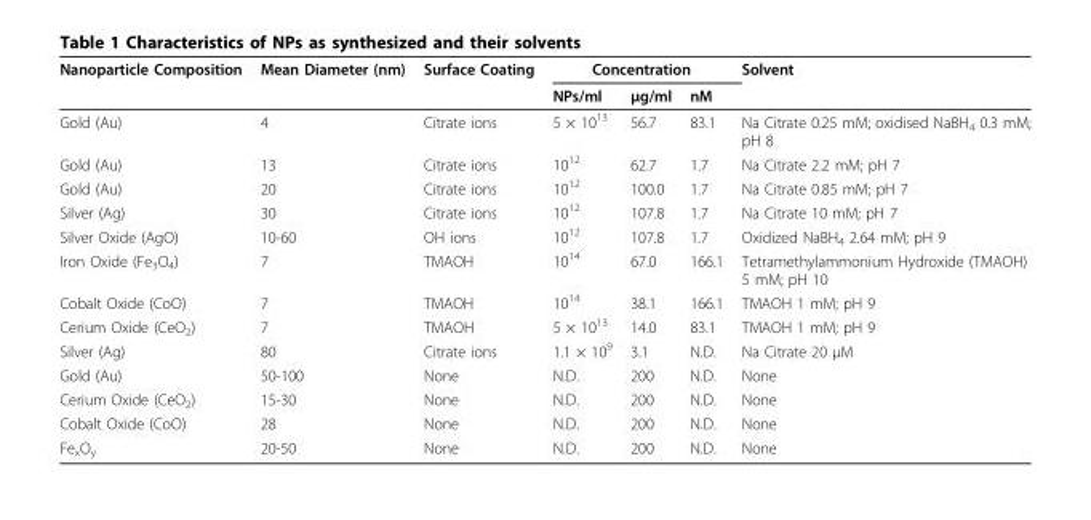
<table><thead><tr><td rowspan="2">Nanoparticle Composition</td><td rowspan="2">Mean Diameter (nm)</td><td rowspan="2">Surface Coating</td><td colspan="3">Concentration</td><td rowspan="2">Solvent</td></tr><tr><td>NPs/ml</td><td>μg/ml</td><td>nM</td></tr></thead><tbody><tr><td>Gold (Au)</td><td>4</td><td>Citrate ions</td><td>5 × 10<sup>13</sup></td><td>56.7</td><td>83.1</td><td>Na Citrate 0.25 mM; oxidised NaBH<sub>4</sub> 0.3 mM; pH 8</td></tr><tr><td>Gold (Au)</td><td>13</td><td>Citrate ions</td><td>10<sup>12</sup></td><td>62.7</td><td>1.7</td><td>Na Citrate 2.2 mM; pH 7</td></tr><tr><td>Gold (Au)</td><td>20</td><td>Citrate ions</td><td>10<sup>12</sup></td><td>100.0</td><td>1.7</td><td>Na Citrate 0.85 mM; pH 7</td></tr><tr><td>Silver (Ag)</td><td>30</td><td>Citrate ions</td><td>10<sup>12</sup></td><td>107.8</td><td>1.7</td><td>Na Citrate 10 mM; pH 7</td></tr><tr><td>Silver Oxide (AgO)</td><td>10-60</td><td>OH ions</td><td>10<sup>12</sup></td><td>107.8</td><td>1.7</td><td>Oxidized NaBH<sub>4</sub> 2.64 mM; pH 9</td></tr><tr><td>Iron Oxide (Fe<sub>3</sub>O<sub>4</sub>)</td><td>7</td><td>TMAOH</td><td>10<sup>14</sup></td><td>67.0</td><td>166.1</td><td>Tetramethylammonium Hydroxide (TMAOH) 5 mM; pH 10</td></tr><tr><td>Cobalt Oxide (CoO)</td><td>7</td><td>TMAOH</td><td>10<sup>14</sup></td><td>38.1</td><td>166.1</td><td>TMAOH 1 mM; pH 9</td></tr><tr><td>Cerium Oxide (CeO<sub>2</sub>)</td><td>7</td><td>TMAOH</td><td>5 × 10<sup>13</sup></td><td>14.0</td><td>83.1</td><td>TMAOH 1 mM; pH 9</td></tr><tr><td>Silver (Ag)</td><td>80</td><td>Citrate ions</td><td>1.1 × 10<sup>9</sup></td><td>3.1</td><td>N.D.</td><td>Na Citrate 20 μM</td></tr><tr><td>Gold (Au)</td><td>50-100</td><td>None</td><td>N.D.</td><td>200</td><td>N.D.</td><td>None</td></tr><tr><td>Cerium Oxide (CeO<sub>2</sub>)</td><td>15-30</td><td>None</td><td>N.D.</td><td>200</td><td>N.D.</td><td>None</td></tr><tr><td>Cobalt Oxide (CoO)</td><td>28</td><td>None</td><td>N.D.</td><td>200</td><td>N.D.</td><td>None</td></tr><tr><td>Fe<sub>x</sub>O<sub>y</sub></td><td>20-50</td><td>None</td><td>N.D.</td><td>200</td><td>N.D.</td><td>None</td></tr></tbody></table>